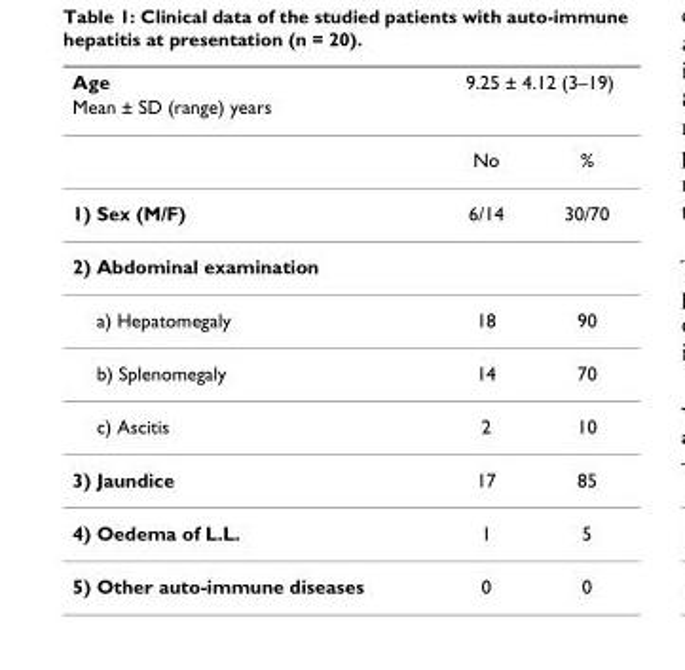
<table><thead><tr><td rowspan="2">Age Mean ± SD (range) years</td><td colspan="2">9.25 ± 4.12 (3–19)</td></tr><tr><td></td><td></td></tr></thead><tbody><tr><td></td><td>No</td><td>%</td></tr><tr><td>1) Sex (M/F)</td><td>6/14</td><td>30/70</td></tr><tr><td colspan="3">2) Abdominal examination</td></tr><tr><td>a) Hepatomegaly</td><td>18</td><td>90</td></tr><tr><td>b) Splenomegaly</td><td>14</td><td>70</td></tr><tr><td>c) Ascitis</td><td>2</td><td>10</td></tr><tr><td>3) Jaundice</td><td>17</td><td>85</td></tr><tr><td>4) Oedema of L.L.</td><td>1</td><td>5</td></tr><tr><td>5) Other auto-immune diseases</td><td>0</td><td>0</td></tr></tbody></table>